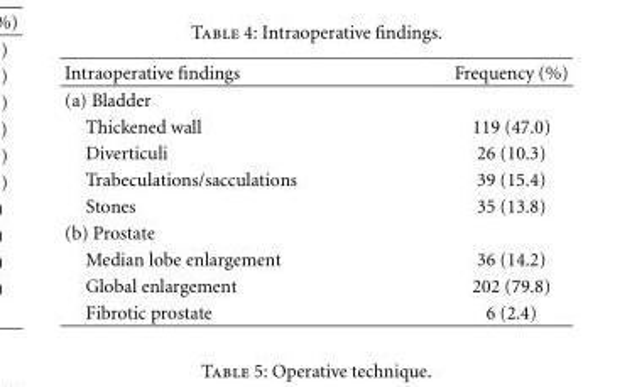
<table><thead><tr><td>Intraoperative findings</td><td>Frequency (%)</td></tr></thead><tbody><tr><td colspan="2">(a) Bladder</td></tr><tr><td>Thickened wall</td><td>119 (47.0)</td></tr><tr><td>Diverticuli</td><td>26 (10.3)</td></tr><tr><td>Trabeculations/sacculations</td><td>39 (15.4)</td></tr><tr><td>Stones</td><td>35 (13.8)</td></tr><tr><td colspan="2">(b) Prostate</td></tr><tr><td>Median lobe enlargement</td><td>36 (14.2)</td></tr><tr><td>Global enlargement</td><td>202 (79.8)</td></tr><tr><td>Fibrotic prostate</td><td>6 (2.4)</td></tr></tbody></table>